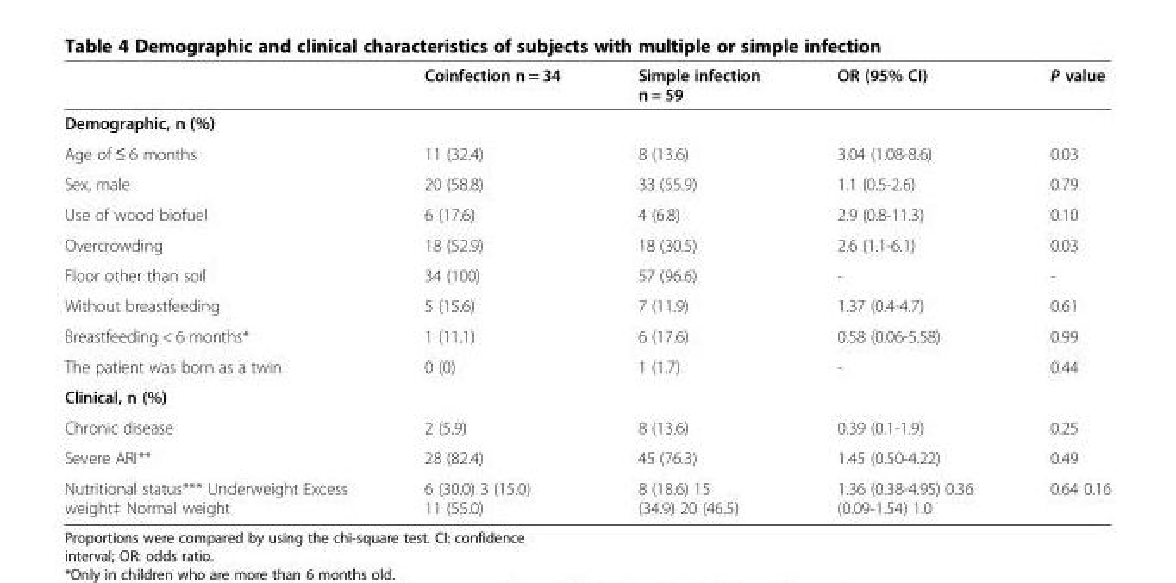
<table><thead><tr><td></td><td>Coinfection n = 34</td><td>Simple infection n = 59</td><td>OR (95% CI)</td><td>P value</td></tr></thead><tbody><tr><td colspan="5">Demographic, n (%)</td></tr><tr><td>Age of ≤ 6 months</td><td>11 (32.4)</td><td>8 (13.6)</td><td>3.04 (1.08-8.6)</td><td>0.03</td></tr><tr><td>Sex, male</td><td>20 (58.8)</td><td>33 (55.9)</td><td>1.1 (0.5-2.6)</td><td>0.79</td></tr><tr><td>Use of wood biofuel</td><td>6 (17.6)</td><td>4 (6.8)</td><td>2.9 (0.8-11.3)</td><td>0.10</td></tr><tr><td>Overcrowding</td><td>18 (52.9)</td><td>18 (30.5)</td><td>2.6 (1.1-6.1)</td><td>0.03</td></tr><tr><td>Floor other than soil</td><td>34 (100)</td><td>57 (96.6)</td><td>-</td><td>-</td></tr><tr><td>Without breastfeeding</td><td>5 (15.6)</td><td>7 (11.9)</td><td>1.37 (0.4-4.7)</td><td>0.61</td></tr><tr><td>Breastfeeding &lt; 6 months*</td><td>1 (11.1)</td><td>6 (17.6)</td><td>0.58 (0.06-5.58)</td><td>0.99</td></tr><tr><td>The patient was born as a twin</td><td>0 (0)</td><td>1 (1.7)</td><td>-</td><td>0.44</td></tr><tr><td colspan="5">Clinical, n (%)</td></tr><tr><td>Chronic disease</td><td>2 (5.9)</td><td>8 (13.6)</td><td>0.39 (0.1-1.9)</td><td>0.25</td></tr><tr><td>Severe ARI**</td><td>28 (82.4)</td><td>45 (76.3)</td><td>1.45 (0.50-4.22)</td><td>0.49</td></tr><tr><td>Nutritional status*** Underweight Excess weight‡ Normal weight</td><td>6 (30.0) 3 (15.0) 11 (55.0)</td><td>8 (18.6) 15 (34.9) 20 (46.5)</td><td>1.36 (0.38-4.95) 0.36 (0.09-1.54) 1.0</td><td>0.64 0.16</td></tr></tbody></table>